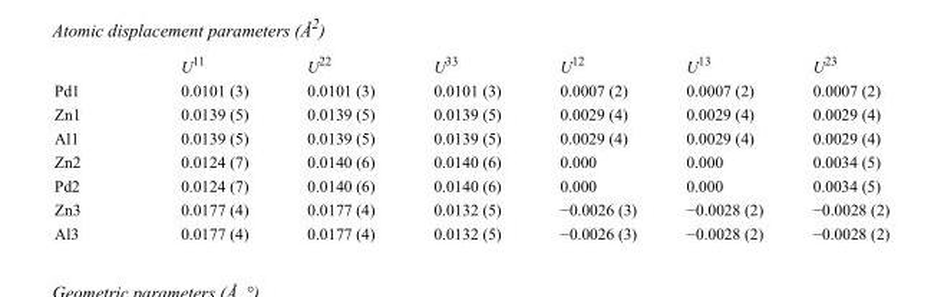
<table><thead><tr><td></td><td>U<sup>11</sup></td><td>U<sup>22</sup></td><td>U<sup>33</sup></td><td>U<sup>12</sup></td><td>U<sup>13</sup></td><td>U<sup>23</sup></td></tr></thead><tbody><tr><td>Pd1</td><td>0.0101 (3)</td><td>0.0101 (3)</td><td>0.0101 (3)</td><td>0.0007 (2)</td><td>0.0007 (2)</td><td>0.0007 (2)</td></tr><tr><td>Zn1</td><td>0.0139 (5)</td><td>0.0139 (5)</td><td>0.0139 (5)</td><td>0.0029 (4)</td><td>0.0029 (4)</td><td>0.0029 (4)</td></tr><tr><td>Al1</td><td>0.0139 (5)</td><td>0.0139 (5)</td><td>0.0139 (5)</td><td>0.0029 (4)</td><td>0.0029 (4)</td><td>0.0029 (4)</td></tr><tr><td>Zn2</td><td>0.0124 (7)</td><td>0.0140 (6)</td><td>0.0140 (6)</td><td>0.000</td><td>0.000</td><td>0.0034 (5)</td></tr><tr><td>Pd2</td><td>0.0124 (7)</td><td>0.0140 (6)</td><td>0.0140 (6)</td><td>0.000</td><td>0.000</td><td>0.0034 (5)</td></tr><tr><td>Zn3</td><td>0.0177 (4)</td><td>0.0177 (4)</td><td>0.0132 (5)</td><td>−0.0026 (3)</td><td>−0.0028 (2)</td><td>−0.0028 (2)</td></tr><tr><td>Al3</td><td>0.0177 (4)</td><td>0.0177 (4)</td><td>0.0132 (5)</td><td>−0.0026 (3)</td><td>−0.0028 (2)</td><td>−0.0028 (2)</td></tr></tbody></table>